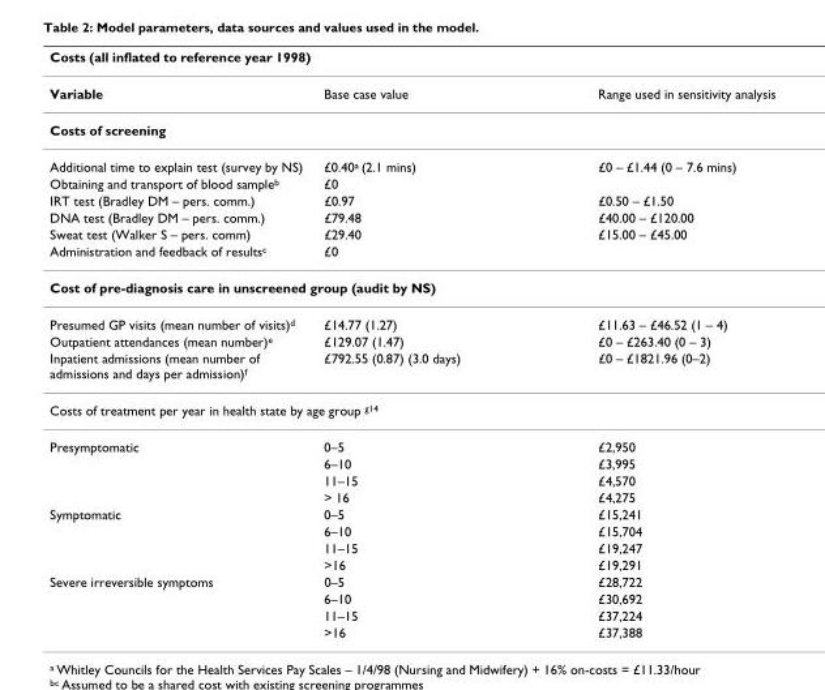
<table><thead><tr><td>Costs (all inflated to reference year 1998)</td><td></td><td></td></tr></thead><tbody><tr><td>Variable</td><td>Base case value</td><td>Range used in sensitivity analysis</td></tr><tr><td colspan="3">Costs of screening</td></tr><tr><td>Additional time to explain test (survey by NS)</td><td>£0.40<sup>a</sup> (2.1 mins)</td><td>£0 – £1.44 (0 – 7.6 mins)</td></tr><tr><td>Obtaining and transport of blood sample<sup>b</sup></td><td>£0</td><td></td></tr><tr><td>IRT test (Bradley DM – pers. comm.)</td><td>£0.97</td><td>£0.50 – £1.50</td></tr><tr><td>DNA test (Bradley DM – pers. comm.)</td><td>£79.48</td><td>£40.00 – £120.00</td></tr><tr><td>Sweat test (Walker S – pers. comm)</td><td>£29.40</td><td>£15.00 – £45.00</td></tr><tr><td>Administration and feedback of results<sup>c</sup></td><td>£0</td><td></td></tr><tr><td colspan="3">Cost of pre-diagnosis care in unscreened group (audit by NS)</td></tr><tr><td>Presumed GP visits (mean number of visits)<sup>d</sup></td><td>£14.77 (1.27)</td><td>£11.63 – £46.52 (1 – 4)</td></tr><tr><td>Outpatient attendances (mean number)<sup>e</sup></td><td>£129.07 (1.47)</td><td>£0 – £263.40 (0 – 3)</td></tr><tr><td>Inpatient admissions (mean number of admissions and days per admission)<sup>f</sup></td><td>£792.55 (0.87) (3.0 days)</td><td>£0 – £1821.96 (0–2)</td></tr><tr><td colspan="3">Costs of treatment per year in health state by age group <sup>g14</sup></td></tr><tr><td rowspan="4">Presymptomatic</td><td>0–5</td><td>£2,950</td></tr><tr><td>6–10</td><td>£3,995</td></tr><tr><td>11–15</td><td>£4,570</td></tr><tr><td>&gt; 16</td><td>£4,275</td></tr><tr><td rowspan="4">Symptomatic</td><td>0–5</td><td>£15,241</td></tr><tr><td>6–10</td><td>£15,704</td></tr><tr><td>11–15</td><td>£19,247</td></tr><tr><td>&gt;16</td><td>£19,291</td></tr><tr><td rowspan="4">Severe irreversible symptoms</td><td>0–5</td><td>£28,722</td></tr><tr><td>6–10</td><td>£30,692</td></tr><tr><td>11–15</td><td>£37,224</td></tr><tr><td>&gt;16</td><td>£37,388</td></tr></tbody></table>